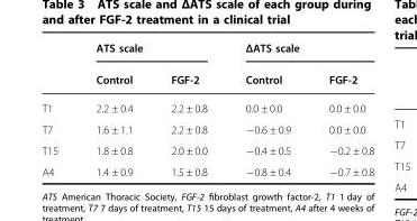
<table><thead><tr><td rowspan="2"></td><td colspan="2">ATS scale</td><td colspan="2">ΔATS scale</td></tr><tr><td>Control</td><td>FGF-2</td><td>Control</td><td>FGF-2</td></tr></thead><tbody><tr><td>T1</td><td>2.2 ± 0.4</td><td>2.2 ± 0.8</td><td>0.0 ± 0.0</td><td>0.0 ± 0.0</td></tr><tr><td>T7</td><td>1.6 ± 1.1</td><td>2.2 ± 0.8</td><td>−0.6 ± 0.9</td><td>0.0 ± 0.0</td></tr><tr><td>T15</td><td>1.8 ± 0.8</td><td>2.0 ± 0.0</td><td>−0.4 ± 0.5</td><td>−0.2 ± 0.8</td></tr><tr><td>A4</td><td>1.4 ± 0.9</td><td>1.5 ± 0.8</td><td>−0.8 ± 0.4</td><td>−0.7 ± 0.8</td></tr></tbody></table>